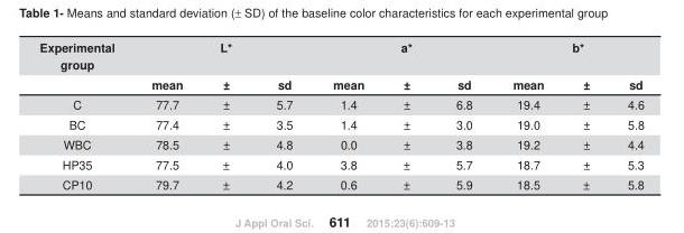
<table><thead><tr><td rowspan="2">Experimental group</td><td colspan="3">L*</td><td colspan="3">a*</td><td colspan="3">b*</td></tr><tr><td>mean</td><td>±</td><td>sd</td><td>mean</td><td>±</td><td>sd</td><td>mean</td><td>±</td><td>sd</td></tr></thead><tbody><tr><td>C</td><td>77.7</td><td>±</td><td>5.7</td><td>1.4</td><td>±</td><td>6.8</td><td>19.4</td><td>±</td><td>4.6</td></tr><tr><td>BC</td><td>77.4</td><td>±</td><td>3.5</td><td>1.4</td><td>±</td><td>3.0</td><td>19.0</td><td>±</td><td>5.8</td></tr><tr><td>WBC</td><td>78.5</td><td>±</td><td>4.8</td><td>0.0</td><td>±</td><td>3.8</td><td>19.2</td><td>±</td><td>4.4</td></tr><tr><td>HP35</td><td>77.5</td><td>±</td><td>4.0</td><td>3.8</td><td>±</td><td>5.7</td><td>18.7</td><td>±</td><td>5.3</td></tr><tr><td>CP10</td><td>79.7</td><td>±</td><td>4.2</td><td>0.6</td><td>±</td><td>5.9</td><td>18.5</td><td>±</td><td>5.8</td></tr></tbody></table>